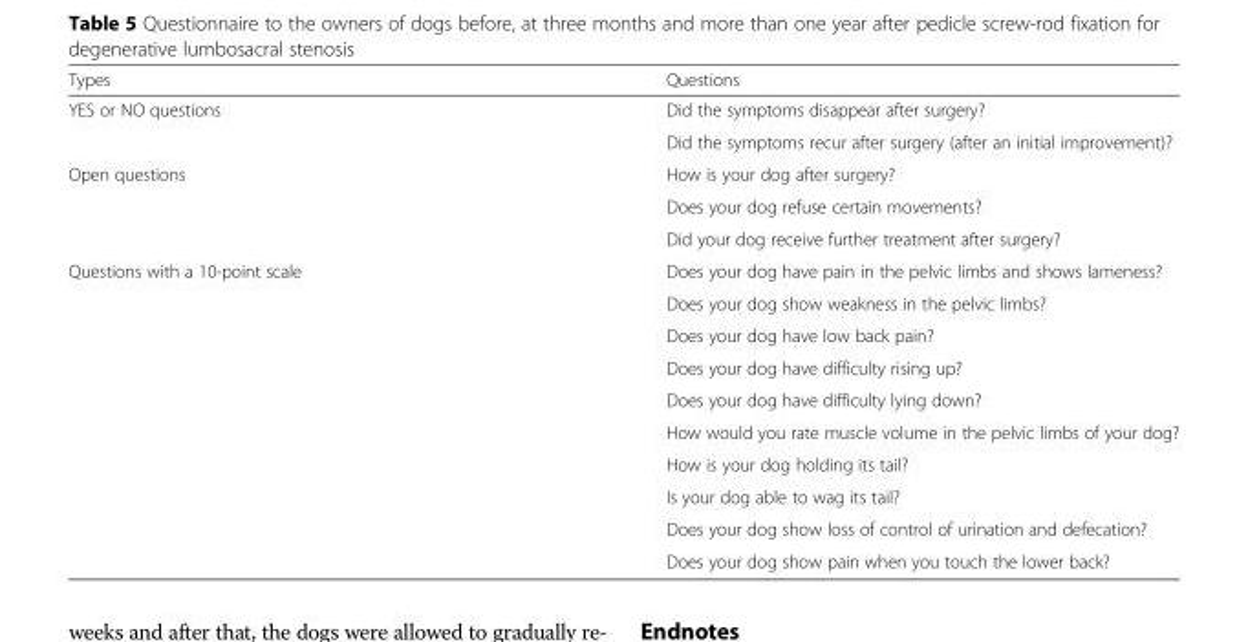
<table><thead><tr><td>Types</td><td>Questions</td></tr></thead><tbody><tr><td rowspan="2">YES or NO questions</td><td>Did the symptoms disappear after surgery?</td></tr><tr><td>Did the symptoms recur after surgery (after an initial improvement)?</td></tr><tr><td rowspan="3">Open questions</td><td>How is your dog after surgery?</td></tr><tr><td>Does your dog refuse certain movements?</td></tr><tr><td>Did your dog receive further treatment after surgery?</td></tr><tr><td rowspan="10">Questions with a 10-point scale</td><td>Does your dog have pain in the pelvic limbs and shows lameness?</td></tr><tr><td>Does your dog show weakness in the pelvic limbs?</td></tr><tr><td>Does your dog have low back pain?</td></tr><tr><td>Does your dog have difficulty rising up?</td></tr><tr><td>Does your dog have difficulty lying down?</td></tr><tr><td>How would you rate muscle volume in the pelvic limbs of your dog?</td></tr><tr><td>How is your dog holding its tail?</td></tr><tr><td>Is your dog able to wag its tail?</td></tr><tr><td>Does your dog show loss of control of urination and defecation?</td></tr><tr><td>Does your dog show pain when you touch the lower back?</td></tr></tbody></table>